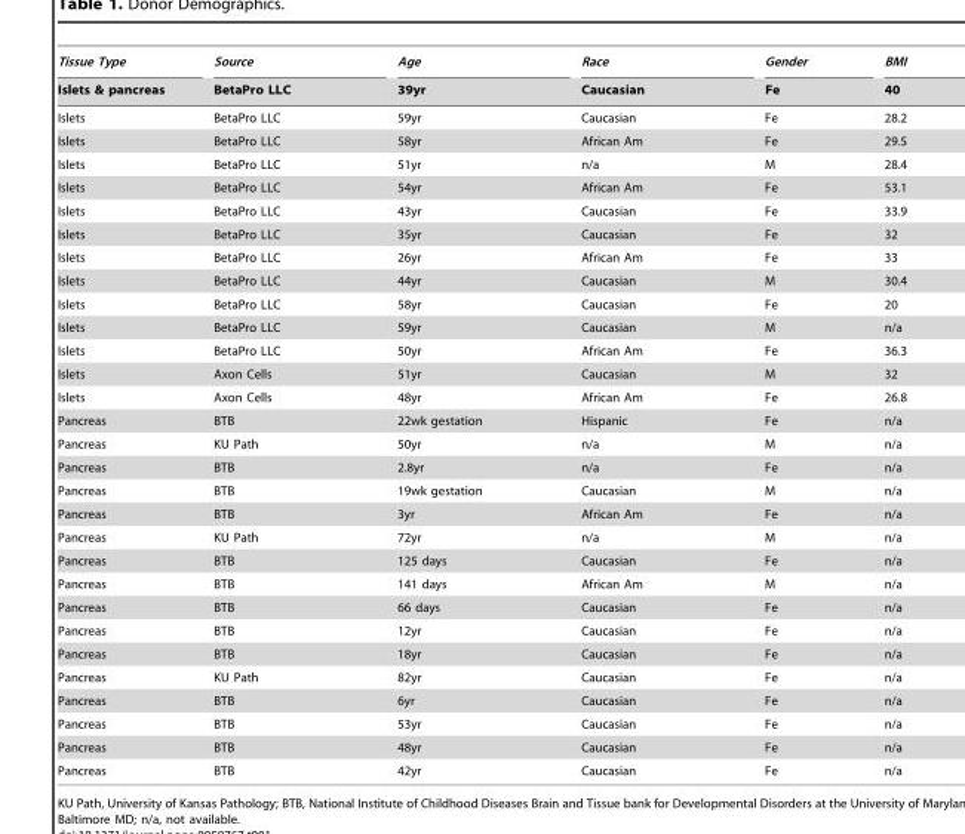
<table><thead><tr><td rowspan="2">Tissue Type Islets &amp; pancreas</td><td rowspan="2">Source BetaPro LLC</td><td rowspan="2">Age 39yr</td><td rowspan="2">Race Caucasian</td><td rowspan="2">Gender Fe</td><td rowspan="2">BMI 40</td></tr><tr></tr></thead><tbody><tr><td>Islets</td><td>BetaPro LLC</td><td>59yr</td><td>Caucasian</td><td>Fe</td><td>28.2</td></tr><tr><td>Islets</td><td>BetaPro LLC</td><td>58yr</td><td>African Am</td><td>Fe</td><td>29.5</td></tr><tr><td>Islets</td><td>BetaPro LLC</td><td>51yr</td><td>n/a</td><td>M</td><td>28.4</td></tr><tr><td>Islets</td><td>BetaPro LLC</td><td>54yr</td><td>African Am</td><td>Fe</td><td>53.1</td></tr><tr><td>Islets</td><td>BetaPro LLC</td><td>43yr</td><td>Caucasian</td><td>Fe</td><td>33.9</td></tr><tr><td>Islets</td><td>BetaPro LLC</td><td>35yr</td><td>Caucasian</td><td>Fe</td><td>32</td></tr><tr><td>Islets</td><td>BetaPro LLC</td><td>26yr</td><td>African Am</td><td>Fe</td><td>33</td></tr><tr><td>Islets</td><td>BetaPro LLC</td><td>44yr</td><td>Caucasian</td><td>M</td><td>30.4</td></tr><tr><td>Islets</td><td>BetaPro LLC</td><td>58yr</td><td>Caucasian</td><td>Fe</td><td>20</td></tr><tr><td>Islets</td><td>BetaPro LLC</td><td>59yr</td><td>Caucasian</td><td>M</td><td>n/a</td></tr><tr><td>Islets</td><td>BetaPro LLC</td><td>50yr</td><td>African Am</td><td>Fe</td><td>36.3</td></tr><tr><td>Islets</td><td>Axon Cells</td><td>51yr</td><td>Caucasian</td><td>M</td><td>32</td></tr><tr><td>Islets</td><td>Axon Cells</td><td>48yr</td><td>African Am</td><td>Fe</td><td>26.8</td></tr><tr><td>Pancreas</td><td>BTB</td><td>22wk gestation</td><td>Hispanic</td><td>Fe</td><td>n/a</td></tr><tr><td>Pancreas</td><td>KU Path</td><td>50yr</td><td>n/a</td><td>M</td><td>n/a</td></tr><tr><td>Pancreas</td><td>BTB</td><td>2.8yr</td><td>n/a</td><td>Fe</td><td>n/a</td></tr><tr><td>Pancreas</td><td>BTB</td><td>19wk gestation</td><td>Caucasian</td><td>M</td><td>n/a</td></tr><tr><td>Pancreas</td><td>BTB</td><td>3yr</td><td>African Am</td><td>Fe</td><td>n/a</td></tr><tr><td>Pancreas</td><td>KU Path</td><td>72yr</td><td>n/a</td><td>M</td><td>n/a</td></tr><tr><td>Pancreas</td><td>BTB</td><td>125 days</td><td>Caucasian</td><td>Fe</td><td>n/a</td></tr><tr><td>Pancreas</td><td>BTB</td><td>141 days</td><td>African Am</td><td>M</td><td>n/a</td></tr><tr><td>Pancreas</td><td>BTB</td><td>66 days</td><td>Caucasian</td><td>Fe</td><td>n/a</td></tr><tr><td>Pancreas</td><td>BTB</td><td>12yr</td><td>Caucasian</td><td>Fe</td><td>n/a</td></tr><tr><td>Pancreas</td><td>BTB</td><td>18yr</td><td>Caucasian</td><td>Fe</td><td>n/a</td></tr><tr><td>Pancreas</td><td>KU Path</td><td>82yr</td><td>Caucasian</td><td>Fe</td><td>n/a</td></tr><tr><td>Pancreas</td><td>BTB</td><td>6yr</td><td>Caucasian</td><td>Fe</td><td>n/a</td></tr><tr><td>Pancreas</td><td>BTB</td><td>53yr</td><td>Caucasian</td><td>Fe</td><td>n/a</td></tr><tr><td>Pancreas</td><td>BTB</td><td>48yr</td><td>Caucasian</td><td>Fe</td><td>n/a</td></tr><tr><td>Pancreas</td><td>BTB</td><td>42yr</td><td>Caucasian</td><td>Fe</td><td>n/a</td></tr></tbody></table>